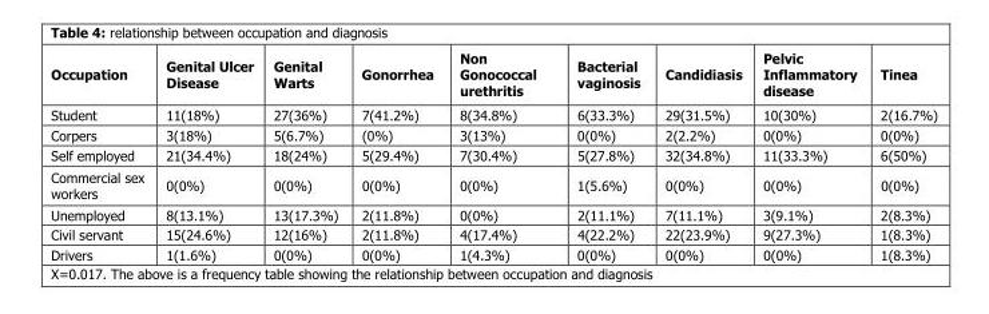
<table><thead><tr><td>Occupation</td><td>Genital Ulcer Disease</td><td>Genital Warts</td><td>Gonorrhea</td><td>Non Gonococcal urethritis</td><td>Bacterial vaginosis</td><td>Candidiasis</td><td>Pelvic Inflammatory disease</td><td>Tinea</td></tr></thead><tbody><tr><td>Student</td><td>11(18%)</td><td>27(36%)</td><td>7(41.2%)</td><td>8(34.8%)</td><td>6(33.3%)</td><td>29(31.5%)</td><td>10(30%)</td><td>2(16.7%)</td></tr><tr><td>Corpers</td><td>3(18%)</td><td>5(6.7%)</td><td>(0%)</td><td>3(13%)</td><td>0(0%)</td><td>2(2.2%)</td><td>0(0%)</td><td>0(0%)</td></tr><tr><td>Self employed</td><td>21(34.4%)</td><td>18(24%)</td><td>5(29.4%)</td><td>7(30.4%)</td><td>5(27.8%)</td><td>32(34.8%)</td><td>11(33.3%)</td><td>6(50%)</td></tr><tr><td>Commercial sex workers</td><td>0(0%)</td><td>0(0%)</td><td>0(0%)</td><td>0(0%)</td><td>1(5.6%)</td><td>0(0%)</td><td>0(0%)</td><td>0(0%)</td></tr><tr><td>Unemployed</td><td>8(13.1%)</td><td>13(17.3%)</td><td>2(11.8%)</td><td>0(0%)</td><td>2(11.1%)</td><td>7(11.1%)</td><td>3(9.1%)</td><td>2(8.3%)</td></tr><tr><td>Civil servant</td><td>15(24.6%)</td><td>12(16%)</td><td>2(11.8%)</td><td>4(17.4%)</td><td>4(22.2%)</td><td>22(23.9%)</td><td>9(27.3%)</td><td>1(8.3%)</td></tr><tr><td>Drivers</td><td>1(1.6%)</td><td>0(0%)</td><td>0(0%)</td><td>1(4.3%)</td><td>0(0%)</td><td>0(0%)</td><td>0(0%)</td><td>1(8.3%)</td></tr></tbody></table>